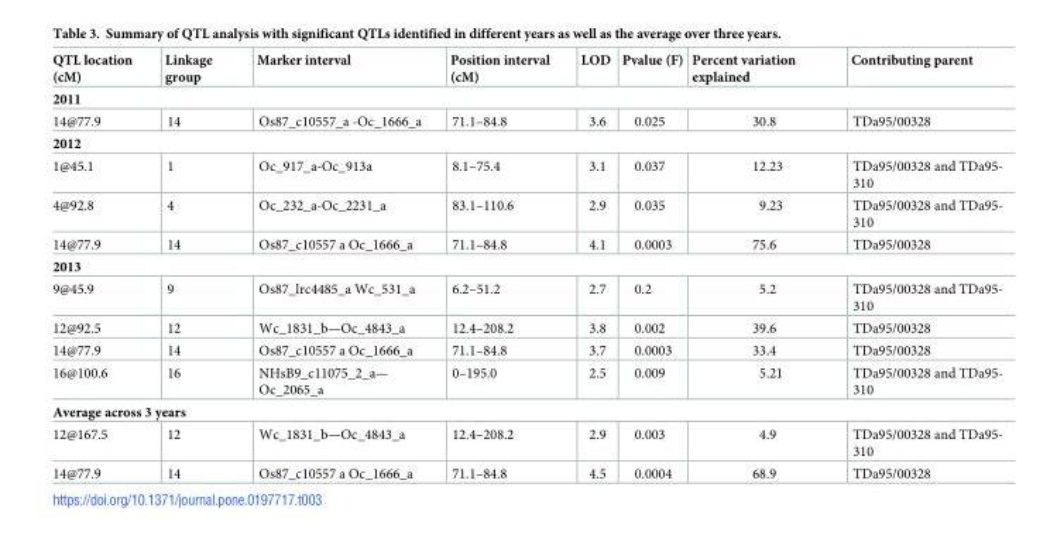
<table><thead><tr><td>QTL location (cM)</td><td>Linkage group</td><td>Marker interval</td><td>Position interval (cM)</td><td>LOD</td><td>Pvalue (F)</td><td>Percent variation explained</td><td>Contributing parent</td></tr></thead><tbody><tr><td colspan="8">2011</td></tr><tr><td>14@77.9</td><td>14</td><td>Os87_c10557_a -Oc_1666_a</td><td>71.1–84.8</td><td>3.6</td><td>0.025</td><td>30.8</td><td>TDa95/00328</td></tr><tr><td colspan="8">2012</td></tr><tr><td>1@45.1</td><td>1</td><td>Oc_917_a-Oc_913a</td><td>8.1–75.4</td><td>3.1</td><td>0.037</td><td>12.23</td><td>TDa95/00328 and TDa95- 310</td></tr><tr><td>4@92.8</td><td>4</td><td>Oc_232_a-Oc_2231_a</td><td>83.1–110.6</td><td>2.9</td><td>0.035</td><td>9.23</td><td>TDa95/00328 and TDa95- 310</td></tr><tr><td>14@77.9</td><td>14</td><td>Os87_c10557 a Oc_1666_a</td><td>71.1–84.8</td><td>4.1</td><td>0.0003</td><td>75.6</td><td>TDa95/00328</td></tr><tr><td colspan="8">2013</td></tr><tr><td>9@45.9</td><td>9</td><td>Os87_lrc4485_a Wc_531_a</td><td>6.2–51.2</td><td>2.7</td><td>0.2</td><td>5.2</td><td>TDa95/00328 and TDa95- 310</td></tr><tr><td>12@92.5</td><td>12</td><td>Wc_1831_b—Oc_4843_a</td><td>12.4–208.2</td><td>3.8</td><td>0.002</td><td>39.6</td><td>TDa95/00328</td></tr><tr><td>14@77.9</td><td>14</td><td>Os87_c10557 a Oc_1666_a</td><td>71.1–84.8</td><td>3.7</td><td>0.0003</td><td>33.4</td><td>TDa95/00328</td></tr><tr><td>16@100.6</td><td>16</td><td>NHsB9_c11075_2_a— Oc_2065_a</td><td>0–195.0</td><td>2.5</td><td>0.009</td><td>5.21</td><td>TDa95/00328 and TDa95- 310</td></tr><tr><td colspan="8">Average across 3 years</td></tr><tr><td>12@167.5</td><td>12</td><td>Wc_1831_b—Oc_4843_a</td><td>12.4–208.2</td><td>2.9</td><td>0.003</td><td>4.9</td><td>TDa95/00328 and TDa95- 310</td></tr><tr><td>14@77.9</td><td>14</td><td>Os87_c10557 a Oc_1666_a</td><td>71.1–84.8</td><td>4.5</td><td>0.0004</td><td>68.9</td><td>TDa95/00328</td></tr></tbody></table>